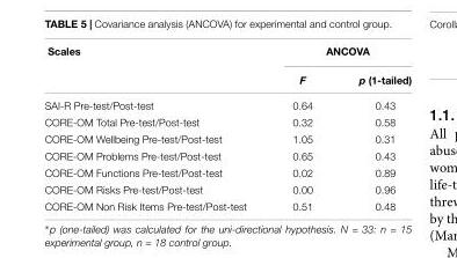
<table><thead><tr><td rowspan="2">Scales</td><td colspan="2">ANCOVA</td></tr><tr><td>F</td><td>p (1-tailed)</td></tr></thead><tbody><tr><td>SAI-R Pre-test/Post-test</td><td>0.64</td><td>0.43</td></tr><tr><td>CORE-OM Total Pre-test/Post-test</td><td>0.32</td><td>0.58</td></tr><tr><td>CORE-OM Wellbeing Pre-test/Post-test</td><td>1.05</td><td>0.31</td></tr><tr><td>CORE-OM Problems Pre-test/Post-test</td><td>0.65</td><td>0.43</td></tr><tr><td>CORE-OM Functions Pre-test/Post-test</td><td>0.02</td><td>0.89</td></tr><tr><td>CORE-OM Risks Pre-test/Post-test</td><td>0.00</td><td>0.96</td></tr><tr><td>CORE-OM Non Risk Items Pre-test/Post-test</td><td>0.51</td><td>0.48</td></tr></tbody></table>